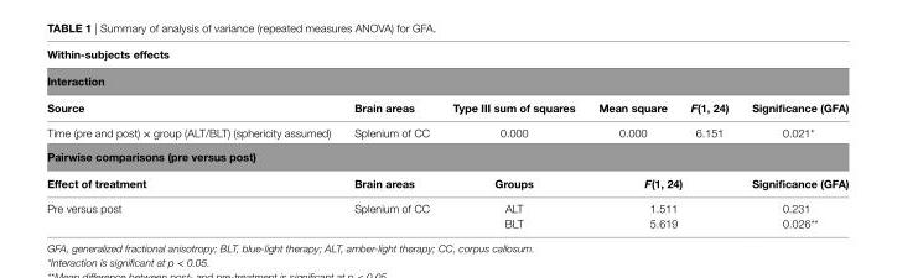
<table><thead><tr><td rowspan="2" colspan="6">Within-subjects effects interaction</td></tr><tr></tr><tr><td>source</td><td>Brain areas</td><td>Type iii sum of squares</td><td>Mean square</td><td>F(1, 24)</td><td>significance (gFa)</td></tr></thead><tbody><tr><td>Time (pre and post) × group (ALT/BLT) (sphericity assumed)</td><td>Splenium of CC</td><td>0.000</td><td>0.000</td><td>6.151</td><td>0.021*</td></tr><tr><td colspan="6">Pairwise comparisons (pre versus post)</td></tr><tr><td>effect of treatment</td><td>Brain areas</td><td>groups</td><td colspan="2">F(1, 24)</td><td>significance (gFa)</td></tr><tr><td rowspan="2">Pre versus post</td><td rowspan="2">Splenium of CC</td><td>ALT</td><td colspan="2">1.511</td><td>0.231</td></tr><tr><td>BLT</td><td colspan="2">5.619</td><td>0.026**</td></tr></tbody></table>